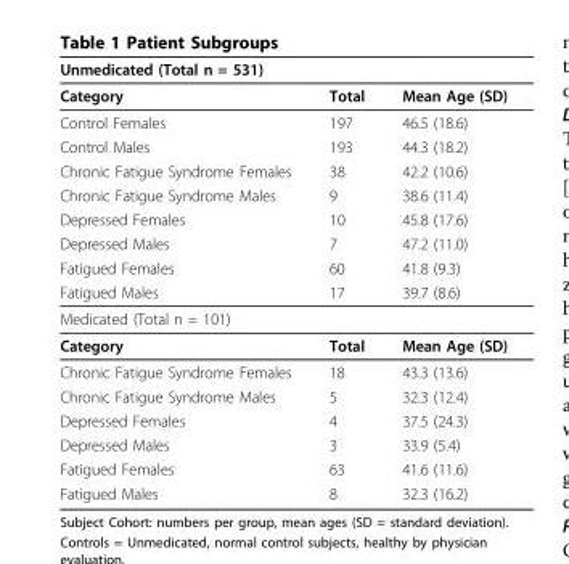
<table><thead><tr><td>Unmedicated (Total n = 531)</td><td></td><td></td></tr></thead><tbody><tr><td>Category</td><td>Total</td><td>Mean Age (SD)</td></tr><tr><td>Control Females</td><td>197</td><td>46.5 (18.6)</td></tr><tr><td>Control Males</td><td>193</td><td>44.3 (18.2)</td></tr><tr><td>Chronic Fatigue Syndrome Females</td><td>38</td><td>42.2 (10.6)</td></tr><tr><td>Chronic Fatigue Syndrome Males</td><td>9</td><td>38.6 (11.4)</td></tr><tr><td>Depressed Females</td><td>10</td><td>45.8 (17.6)</td></tr><tr><td>Depressed Males</td><td>7</td><td>47.2 (11.0)</td></tr><tr><td>Fatigued Females</td><td>60</td><td>41.8 (9.3)</td></tr><tr><td>Fatigued Males</td><td>17</td><td>39.7 (8.6)</td></tr><tr><td colspan="3">Medicated (Total n = 101)</td></tr><tr><td>Category</td><td>Total</td><td>Mean Age (SD)</td></tr><tr><td>Chronic Fatigue Syndrome Females</td><td>18</td><td>43.3 (13.6)</td></tr><tr><td>Chronic Fatigue Syndrome Males</td><td>5</td><td>32.3 (12.4)</td></tr><tr><td>Depressed Females</td><td>4</td><td>37.5 (24.3)</td></tr><tr><td>Depressed Males</td><td>3</td><td>33.9 (5.4)</td></tr><tr><td>Fatigued Females</td><td>63</td><td>41.6 (11.6)</td></tr><tr><td>Fatigued Males</td><td>8</td><td>32.3 (16.2)</td></tr></tbody></table>